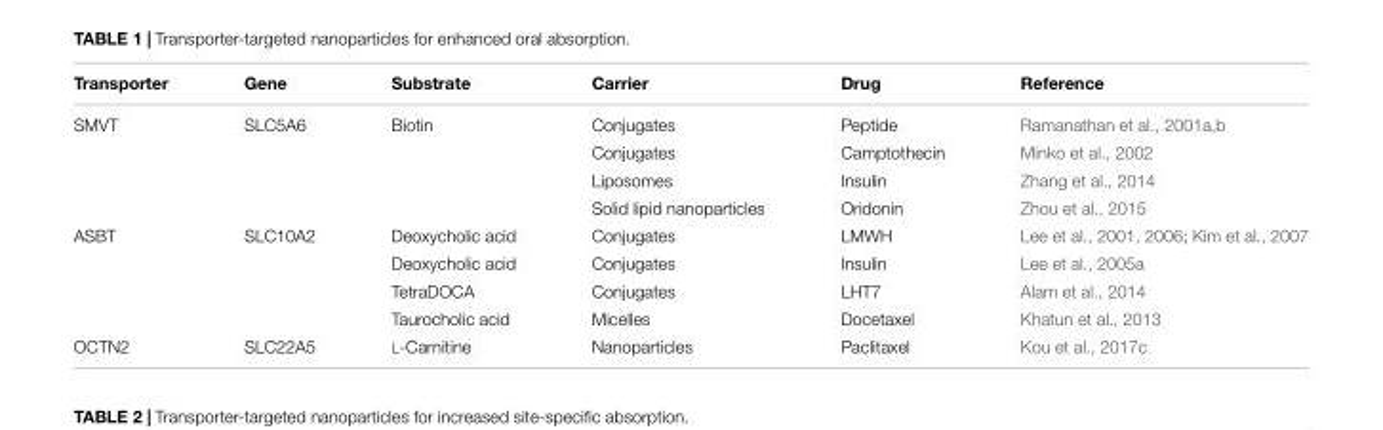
<table><thead><tr><td>Transporter</td><td>Gene</td><td>Substrate</td><td>Carrier</td><td>Drug</td><td>Reference</td></tr></thead><tbody><tr><td rowspan="4">SMVT</td><td>SLC5A6</td><td>Biotin</td><td>Conjugates</td><td>Peptide</td><td>Ramanathan et al., 2001a,b</td></tr><tr><td></td><td></td><td>Conjugates</td><td>Camptothecin</td><td>Minko et al., 2002</td></tr><tr><td></td><td></td><td>Liposomes</td><td>Insulin</td><td>Zhang et al., 2014</td></tr><tr><td></td><td></td><td>Solid lipid nanoparticles</td><td>Oridonin</td><td>Zhou et al., 2015</td></tr><tr><td rowspan="4">ASBT</td><td>SLC10A2</td><td>Deoxycholic acid</td><td>Conjugates</td><td>LMWH</td><td>Lee et al., 2001, 2006; Kim et al., 2007</td></tr><tr><td></td><td>Deoxycholic acid</td><td>Conjugates</td><td>Insulin</td><td>Lee et al., 2005a</td></tr><tr><td></td><td>TetraDOCA</td><td>Conjugates</td><td>LHT7</td><td>Alam et al., 2014</td></tr><tr><td></td><td>Taurocholic acid</td><td>Micelles</td><td>Docetaxel</td><td>Khatun et al., 2013</td></tr><tr><td>OCTN2</td><td>SLC22A5</td><td>L-Carnitine</td><td>Nanoparticles</td><td>Paclitaxel</td><td>Kou et al., 2017c</td></tr></tbody></table>